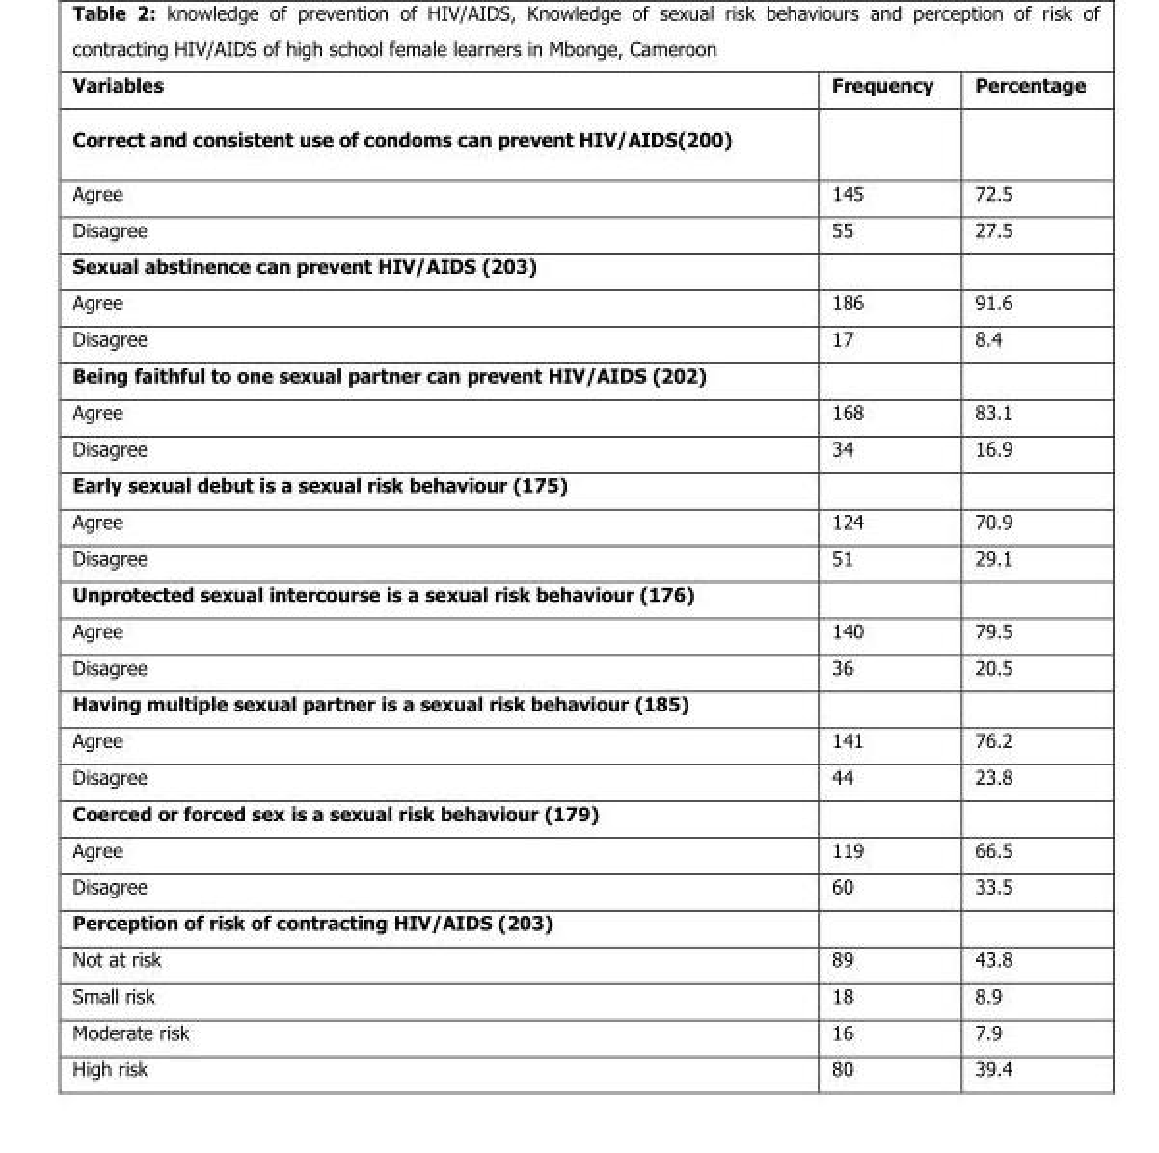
<table><thead><tr><td>Variables</td><td>Frequency</td><td>Percentage</td></tr></thead><tbody><tr><td colspan="3">Correct and consistent use of condoms can prevent HIV/AIDS(200)</td></tr><tr><td>Agree</td><td>145</td><td>72.5</td></tr><tr><td>Disagree</td><td>55</td><td>27.5</td></tr><tr><td colspan="3">Sexual abstinence can prevent HIV/AIDS (203)</td></tr><tr><td>Agree</td><td>186</td><td>91.6</td></tr><tr><td>Disagree</td><td>17</td><td>8.4</td></tr><tr><td colspan="3">Being faithful to one sexual partner can prevent HIV/AIDS (202)</td></tr><tr><td>Agree</td><td>168</td><td>83.1</td></tr><tr><td>Disagree</td><td>34</td><td>16.9</td></tr><tr><td colspan="3">Early sexual debut is a sexual risk behaviour (175)</td></tr><tr><td>Agree</td><td>124</td><td>70.9</td></tr><tr><td>Disagree</td><td>51</td><td>29.1</td></tr><tr><td colspan="3">Unprotected sexual intercourse is a sexual risk behaviour (176)</td></tr><tr><td>Agree</td><td>140</td><td>79.5</td></tr><tr><td>Disagree</td><td>36</td><td>20.5</td></tr><tr><td colspan="3">Having multiple sexual partner is a sexual risk behaviour (185)</td></tr><tr><td>Agree</td><td>141</td><td>76.2</td></tr><tr><td>Disagree</td><td>44</td><td>23.8</td></tr><tr><td colspan="3">Coerced or forced sex is a sexual risk behaviour (179)</td></tr><tr><td>Agree</td><td>119</td><td>66.5</td></tr><tr><td>Disagree</td><td>60</td><td>33.5</td></tr><tr><td colspan="3">Perception of risk of contracting HIV/AIDS (203)</td></tr><tr><td>Not at risk</td><td>89</td><td>43.8</td></tr><tr><td>Small risk</td><td>18</td><td>8.9</td></tr><tr><td>Moderate risk</td><td>16</td><td>7.9</td></tr><tr><td>High risk</td><td>80</td><td>39.4</td></tr></tbody></table>